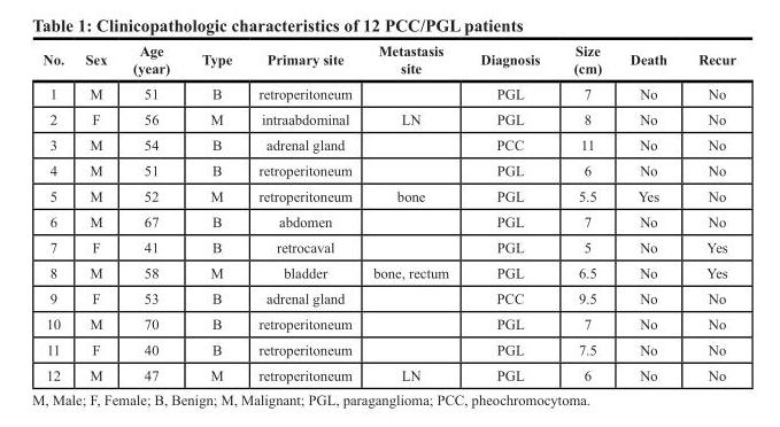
<table><thead><tr><td>No.</td><td>Sex</td><td>Age (year)</td><td>Type</td><td>Primary site</td><td>Metastasis site</td><td>Diagnosis</td><td>Size (cm)</td><td>Death</td><td>Recur</td></tr></thead><tbody><tr><td>1</td><td>M</td><td>51</td><td>B</td><td>retroperitoneum</td><td></td><td>PGL</td><td>7</td><td>No</td><td>No</td></tr><tr><td>2</td><td>F</td><td>56</td><td>M</td><td>intraabdominal</td><td>LN</td><td>PGL</td><td>8</td><td>No</td><td>No</td></tr><tr><td>3</td><td>M</td><td>54</td><td>B</td><td>adrenal gland</td><td></td><td>PCC</td><td>11</td><td>No</td><td>No</td></tr><tr><td>4</td><td>M</td><td>51</td><td>B</td><td>retroperitoneum</td><td></td><td>PGL</td><td>6</td><td>No</td><td>No</td></tr><tr><td>5</td><td>M</td><td>52</td><td>M</td><td>retroperitoneum</td><td>bone</td><td>PGL</td><td>5.5</td><td>Yes</td><td>No</td></tr><tr><td>6</td><td>M</td><td>67</td><td>B</td><td>abdomen</td><td></td><td>PGL</td><td>7</td><td>No</td><td>No</td></tr><tr><td>7</td><td>F</td><td>41</td><td>B</td><td>retrocaval</td><td></td><td>PGL</td><td>5</td><td>No</td><td>Yes</td></tr><tr><td>8</td><td>M</td><td>58</td><td>M</td><td>bladder</td><td>bone, rectum</td><td>PGL</td><td>6.5</td><td>No</td><td>Yes</td></tr><tr><td>9</td><td>F</td><td>53</td><td>B</td><td>adrenal gland</td><td></td><td>PCC</td><td>9.5</td><td>No</td><td>No</td></tr><tr><td>10</td><td>M</td><td>70</td><td>B</td><td>retroperitoneum</td><td></td><td>PGL</td><td>7</td><td>No</td><td>No</td></tr><tr><td>11</td><td>F</td><td>40</td><td>B</td><td>retroperitoneum</td><td></td><td>PGL</td><td>7.5</td><td>No</td><td>No</td></tr><tr><td>12</td><td>M</td><td>47</td><td>M</td><td>retroperitoneum</td><td>LN</td><td>PGL</td><td>6</td><td>No</td><td>No</td></tr></tbody></table>